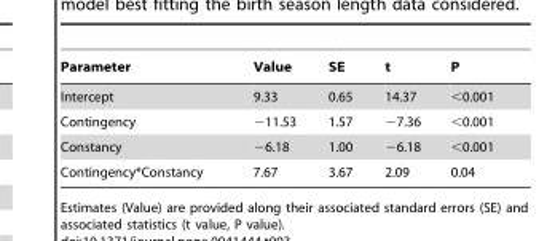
<table><thead><tr><td>Parameter</td><td>Value</td><td>SE</td><td>t</td><td>P</td></tr></thead><tbody><tr><td>Intercept</td><td>9.33</td><td>0.65</td><td>14.37</td><td>&lt;0.001</td></tr><tr><td>Contingency</td><td>−11.53</td><td>1.57</td><td>−7.36</td><td>&lt;0.001</td></tr><tr><td>Constancy</td><td>−6.18</td><td>1.00</td><td>−6.18</td><td>&lt;0.001</td></tr><tr><td>Contingency*Constancy</td><td>7.67</td><td>3.67</td><td>2.09</td><td>0.04</td></tr></tbody></table>